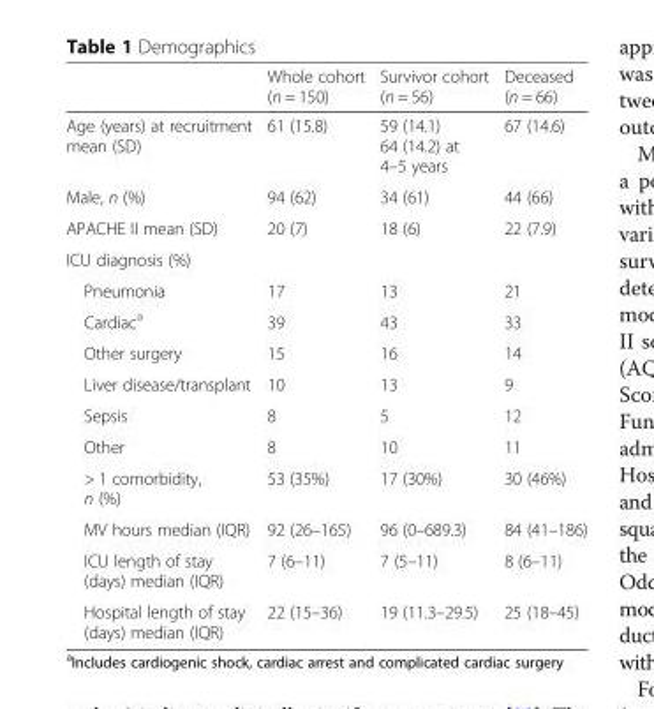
<table><thead><tr><td></td><td>Whole cohort (n = 150)</td><td>Survivor cohort (n = 56)</td><td>Deceased (n = 66)</td></tr></thead><tbody><tr><td>Age (years) at recruitment mean (SD)</td><td>61 (15.8)</td><td>59 (14.1) 64 (14.2) at 4–5 years</td><td>67 (14.6)</td></tr><tr><td>Male, n (%)</td><td>94 (62)</td><td>34 (61)</td><td>44 (66)</td></tr><tr><td>APACHE II mean (SD)</td><td>20 (7)</td><td>18 (6)</td><td>22 (7.9)</td></tr><tr><td colspan="4">ICU diagnosis (%)</td></tr><tr><td>Pneumonia</td><td>17</td><td>13</td><td>21</td></tr><tr><td>Cardiac<sup>a</sup></td><td>39</td><td>43</td><td>33</td></tr><tr><td>Other surgery</td><td>15</td><td>16</td><td>14</td></tr><tr><td>Liver disease/transplant</td><td>10</td><td>13</td><td>9</td></tr><tr><td>Sepsis</td><td>8</td><td>5</td><td>12</td></tr><tr><td>Other</td><td>8</td><td>10</td><td>11</td></tr><tr><td>&gt; 1 comorbidity, n (%)</td><td>53 (35%)</td><td>17 (30%)</td><td>30 (46%)</td></tr><tr><td>MV hours median (IQR)</td><td>92 (26–165)</td><td>96 (0–689.3)</td><td>84 (41–186)</td></tr><tr><td>ICU length of stay (days) median (IQR)</td><td>7 (6–11)</td><td>7 (5–11)</td><td>8 (6–11)</td></tr><tr><td>Hospital length of stay (days) median (IQR)</td><td>22 (15–36)</td><td>19 (11.3–29.5)</td><td>25 (18–45)</td></tr></tbody></table>